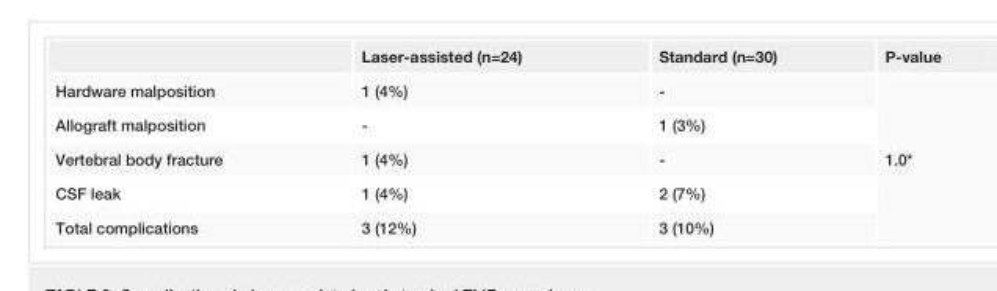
<table><thead><tr><td></td><td>Laser-assisted (n=24)</td><td>Standard (n=30)</td><td>P-value</td></tr></thead><tbody><tr><td>Hardware malposition</td><td>1 (4%)</td><td>-</td><td rowspan="5">1.0*</td></tr><tr><td>Allograft malposition</td><td>-</td><td>1 (3%)</td></tr><tr><td>Vertebral body fracture</td><td>1 (4%)</td><td>-</td></tr><tr><td>CSF leak</td><td>1 (4%)</td><td>2 (7%)</td></tr><tr><td>Total complications</td><td>3 (12%)</td><td>3 (10%)</td></tr></tbody></table>